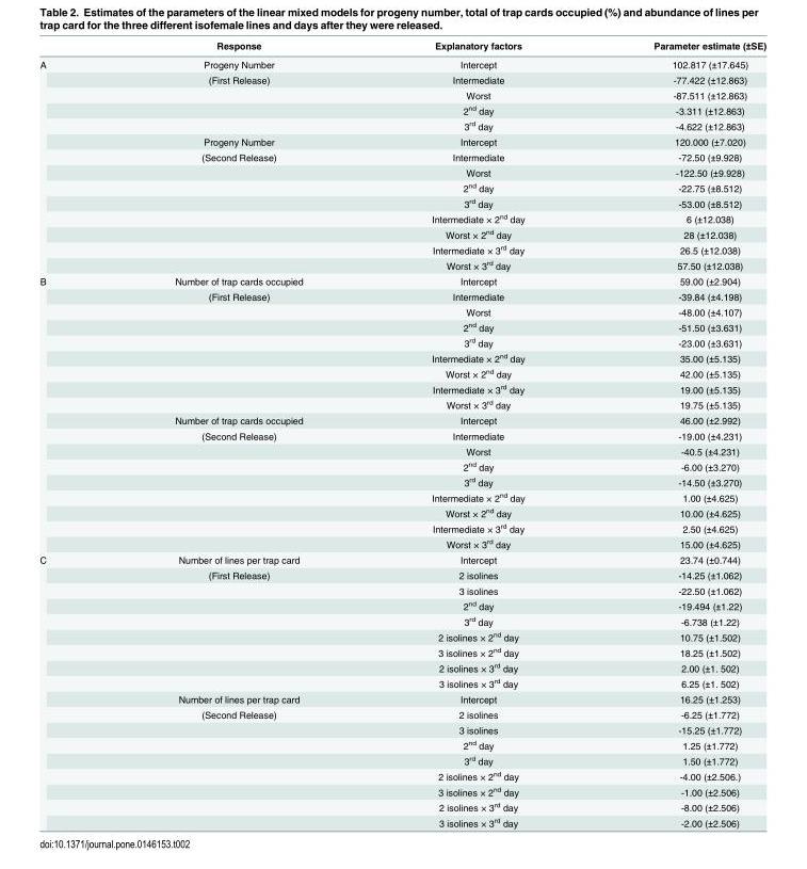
<table><thead><tr><td></td><td>Response</td><td>Explanatory factors</td><td>Parameter estimate (±SE)</td></tr></thead><tbody><tr><td rowspan="14">A</td><td>Progeny Number</td><td>Intercept</td><td>102.817 (±17.645)</td></tr><tr><td>(First Release)</td><td>Intermediate</td><td>-77.422 (±12.863)</td></tr><tr><td></td><td>Worst</td><td>-87.511 (±12.863)</td></tr><tr><td></td><td>2<sup>nd</sup> day</td><td>-3.311 (±12.863)</td></tr><tr><td></td><td>3<sup>rd</sup> day</td><td>-4.622 (±12.863)</td></tr><tr><td>Progeny Number</td><td>Intercept</td><td>120.000 (±7.020)</td></tr><tr><td>(Second Release)</td><td>Intermediate</td><td>-72.50 (±9.928)</td></tr><tr><td></td><td>Worst</td><td>-122.50 (±9.928)</td></tr><tr><td></td><td>2<sup>nd</sup> day</td><td>-22.75 (±8.512)</td></tr><tr><td></td><td>3<sup>rd</sup> day</td><td>-53.00 (±8.512)</td></tr><tr><td></td><td>Intermediate × 2<sup>nd</sup> day</td><td>6 (±12.038)</td></tr><tr><td></td><td>Worst × 2<sup>nd</sup> day</td><td>28 (±12.038)</td></tr><tr><td></td><td>Intermediate × 3<sup>rd</sup> day</td><td>26.5 (±12.038)</td></tr><tr><td></td><td>Worst × 3<sup>rd</sup> day</td><td>57.50 (±12.038)</td></tr><tr><td rowspan="18">B</td><td>Number of trap cards occupied</td><td>Intercept</td><td>59.00 (±2.904)</td></tr><tr><td>(First Release)</td><td>Intermediate</td><td>-39.84 (±4.198)</td></tr><tr><td></td><td>Worst</td><td>-48.00 (±4.107)</td></tr><tr><td></td><td>2<sup>nd</sup> day</td><td>-51.50 (±3.631)</td></tr><tr><td></td><td>3<sup>rd</sup> day</td><td>-23.00 (±3.631)</td></tr><tr><td></td><td>Intermediate × 2<sup>nd</sup> day</td><td>35.00 (±5.135)</td></tr><tr><td></td><td>Worst × 2<sup>nd</sup> day</td><td>42.00 (±5.135)</td></tr><tr><td></td><td>Intermediate × 3<sup>rd</sup> day</td><td>19.00 (±5.135)</td></tr><tr><td></td><td>Worst × 3<sup>rd</sup> day</td><td>19.75 (±5.135)</td></tr><tr><td>Number of trap cards occupied</td><td>Intercept</td><td>46.00 (±2.992)</td></tr><tr><td>(Second Release)</td><td>Intermediate</td><td>-19.00 (±4.231)</td></tr><tr><td></td><td>Worst</td><td>-40.5 (±4.231)</td></tr><tr><td></td><td>2<sup>nd</sup> day</td><td>-6.00 (±3.270)</td></tr><tr><td></td><td>3<sup>rd</sup> day</td><td>-14.50 (±3.270)</td></tr><tr><td></td><td>Intermediate × 2<sup>nd</sup> day</td><td>1.00 (±4.625)</td></tr><tr><td></td><td>Worst × 2<sup>nd</sup> day</td><td>10.00 (±4.625)</td></tr><tr><td></td><td>Intermediate × 3<sup>rd</sup> day</td><td>2.50 (±4.625)</td></tr><tr><td></td><td>Worst × 3<sup>rd</sup> day</td><td>15.00 (±4.625)</td></tr><tr><td rowspan="18">C</td><td>Number of lines per trap card</td><td>Intercept</td><td>23.74 (±0.744)</td></tr><tr><td>(First Release)</td><td>2 isolines</td><td>-14.25 (±1.062)</td></tr><tr><td></td><td>3 isolines</td><td>-22.50 (±1.062)</td></tr><tr><td></td><td>2<sup>nd</sup> day</td><td>-19.494 (±1.22)</td></tr><tr><td></td><td>3<sup>rd</sup> day</td><td>-6.738 (±1.22)</td></tr><tr><td></td><td>2 isolines × 2<sup>nd</sup> day</td><td>10.75 (±1.502)</td></tr><tr><td></td><td>3 isolines × 2<sup>nd</sup> day</td><td>18.25 (±1.502)</td></tr><tr><td></td><td>2 isolines × 3<sup>rd</sup> day</td><td>2.00 (±1. 502)</td></tr><tr><td></td><td>3 isolines × 3<sup>rd</sup> day</td><td>6.25 (±1. 502)</td></tr><tr><td>Number of lines per trap card</td><td>Intercept</td><td>16.25 (±1.253)</td></tr><tr><td>(Second Release)</td><td>2 isolines</td><td>-6.25 (±1.772)</td></tr><tr><td></td><td>3 isolines</td><td>-15.25 (±1.772)</td></tr><tr><td></td><td>2<sup>nd</sup> day</td><td>1.25 (±1.772)</td></tr><tr><td></td><td>3<sup>rd</sup> day</td><td>1.50 (±1.772)</td></tr><tr><td></td><td>2 isolines × 2<sup>nd</sup> day</td><td>-4.00 (±2.506.)</td></tr><tr><td></td><td>3 isolines × 2<sup>nd</sup> day</td><td>-1.00 (±2.506)</td></tr><tr><td></td><td>2 isolines × 3<sup>rd</sup> day</td><td>-8.00 (±2.506)</td></tr><tr><td></td><td>3 isolines × 3<sup>rd</sup> day</td><td>-2.00 (±2.506)</td></tr></tbody></table>